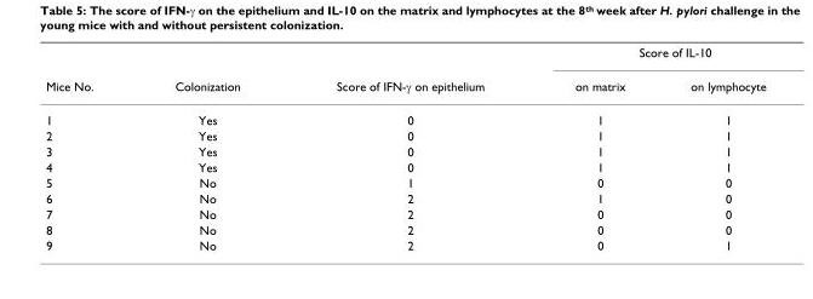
<table><thead><tr><td rowspan="2">Mice No.</td><td rowspan="2">Colonization</td><td rowspan="2">Score of IFN-γ on epithelium</td><td colspan="2">Score of IL-10</td></tr><tr><td>on matrix</td><td>on lymphocyte</td></tr></thead><tbody><tr><td>1</td><td>Yes</td><td>0</td><td>1</td><td>1</td></tr><tr><td>2</td><td>Yes</td><td>0</td><td>1</td><td>1</td></tr><tr><td>3</td><td>Yes</td><td>0</td><td>1</td><td>1</td></tr><tr><td>4</td><td>Yes</td><td>0</td><td>1</td><td>1</td></tr><tr><td>5</td><td>No</td><td>1</td><td>0</td><td>0</td></tr><tr><td>6</td><td>No</td><td>2</td><td>1</td><td>0</td></tr><tr><td>7</td><td>No</td><td>2</td><td>0</td><td>0</td></tr><tr><td>8</td><td>No</td><td>2</td><td>0</td><td>0</td></tr><tr><td>9</td><td>No</td><td>2</td><td>0</td><td>1</td></tr></tbody></table>